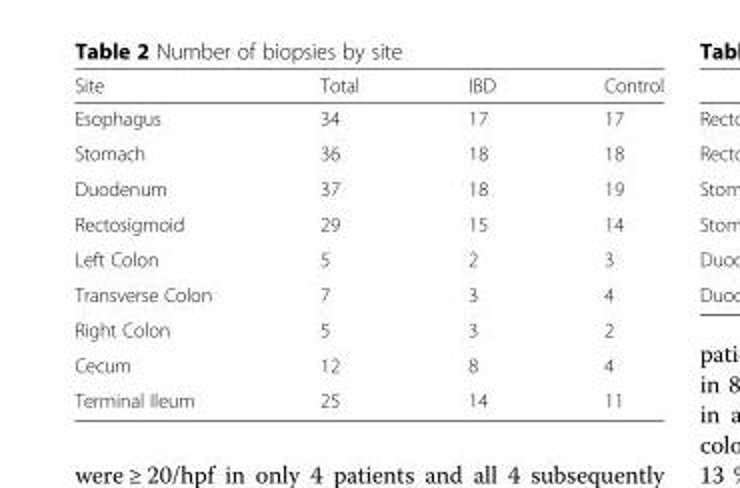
<table><thead><tr><td>Site</td><td>Total</td><td>IBD</td><td>Control</td></tr></thead><tbody><tr><td>Esophagus</td><td>34</td><td>17</td><td>17</td></tr><tr><td>Stomach</td><td>36</td><td>18</td><td>18</td></tr><tr><td>Duodenum</td><td>37</td><td>18</td><td>19</td></tr><tr><td>Rectosigmoid</td><td>29</td><td>15</td><td>14</td></tr><tr><td>Left Colon</td><td>5</td><td>2</td><td>3</td></tr><tr><td>Transverse Colon</td><td>7</td><td>3</td><td>4</td></tr><tr><td>Right Colon</td><td>5</td><td>3</td><td>2</td></tr><tr><td>Cecum</td><td>12</td><td>8</td><td>4</td></tr><tr><td>Terminal Ileum</td><td>25</td><td>14</td><td>11</td></tr></tbody></table>